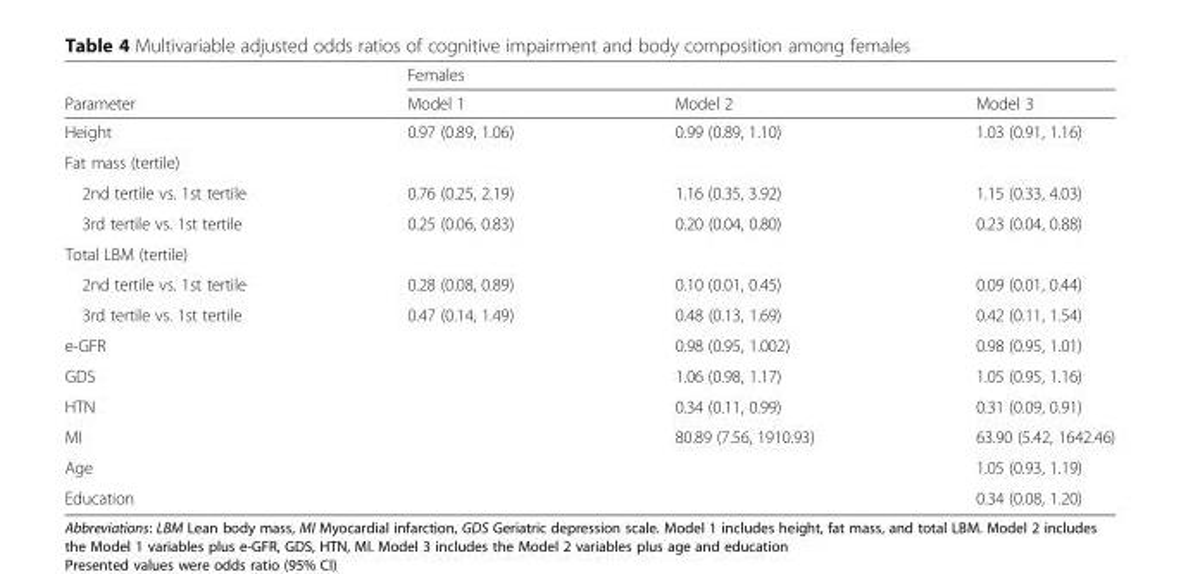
<table><thead><tr><td rowspan="2">Parameter</td><td colspan="3">Females</td></tr><tr><td>Model 1</td><td>Model 2</td><td>Model 3</td></tr></thead><tbody><tr><td>Height</td><td>0.97 (0.89, 1.06)</td><td>0.99 (0.89, 1.10)</td><td>1.03 (0.91, 1.16)</td></tr><tr><td colspan="4">Fat mass (tertile)</td></tr><tr><td>2nd tertile vs. 1st tertile</td><td>0.76 (0.25, 2.19)</td><td>1.16 (0.35, 3.92)</td><td>1.15 (0.33, 4.03)</td></tr><tr><td>3rd tertile vs. 1st tertile</td><td>0.25 (0.06, 0.83)</td><td>0.20 (0.04, 0.80)</td><td>0.23 (0.04, 0.88)</td></tr><tr><td colspan="4">Total LBM (tertile)</td></tr><tr><td>2nd tertile vs. 1st tertile</td><td>0.28 (0.08, 0.89)</td><td>0.10 (0.01, 0.45)</td><td>0.09 (0.01, 0.44)</td></tr><tr><td>3rd tertile vs. 1st tertile</td><td>0.47 (0.14, 1.49)</td><td>0.48 (0.13, 1.69)</td><td>0.42 (0.11, 1.54)</td></tr><tr><td>e-GFR</td><td></td><td>0.98 (0.95, 1.002)</td><td>0.98 (0.95, 1.01)</td></tr><tr><td>GDS</td><td></td><td>1.06 (0.98, 1.17)</td><td>1.05 (0.95, 1.16)</td></tr><tr><td>HTN</td><td></td><td>0.34 (0.11, 0.99)</td><td>0.31 (0.09, 0.91)</td></tr><tr><td>MI</td><td></td><td>80.89 (7.56, 1910.93)</td><td>63.90 (5.42, 1642.46)</td></tr><tr><td>Age</td><td></td><td></td><td>1.05 (0.93, 1.19)</td></tr><tr><td>Education</td><td></td><td></td><td>0.34 (0.08, 1.20)</td></tr></tbody></table>